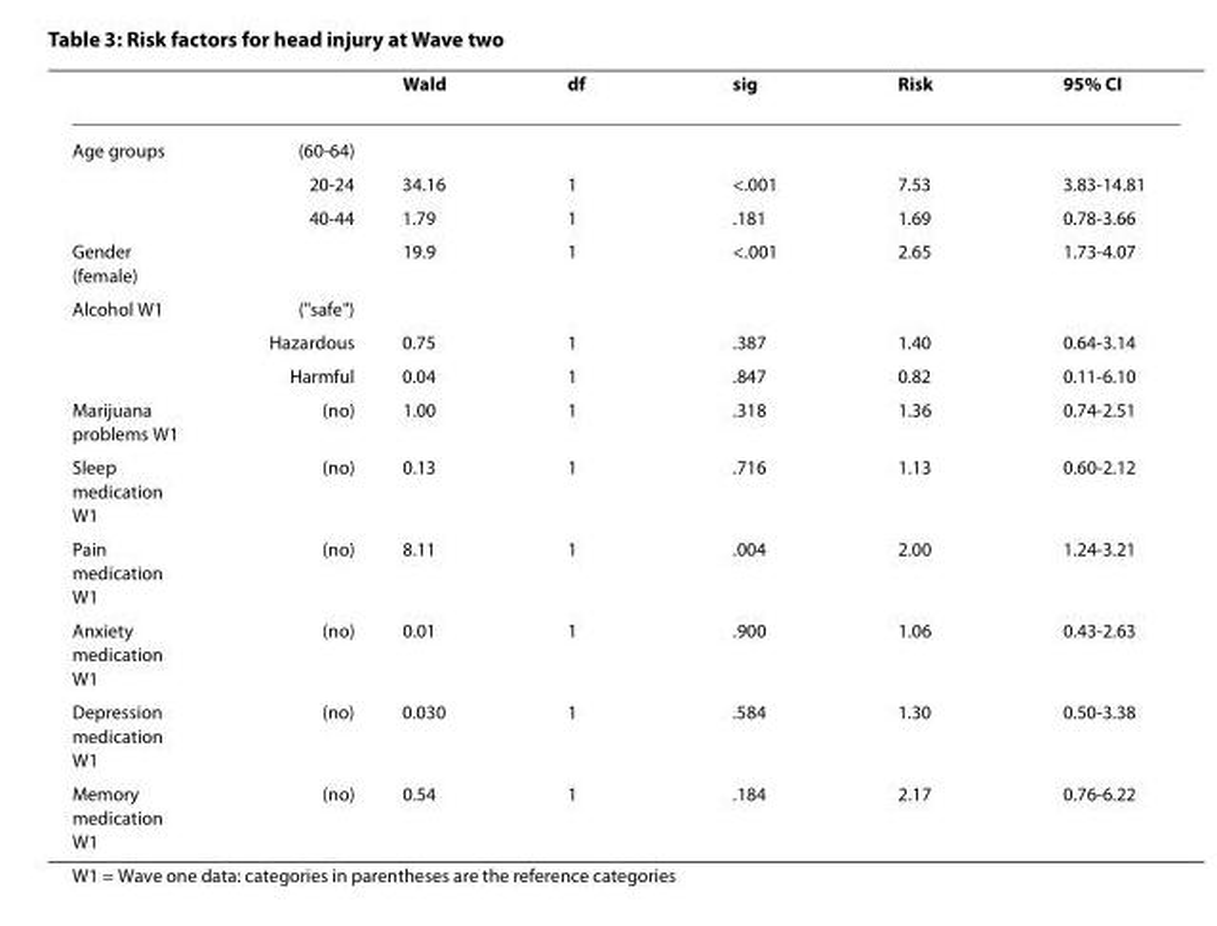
<table><thead><tr><td></td><td></td><td>Wald</td><td>df</td><td>sig</td><td>Risk</td><td>95% CI</td></tr></thead><tbody><tr><td rowspan="3">Age groups</td><td>(60-64)</td><td></td><td></td><td></td><td></td><td></td></tr><tr><td>20-24</td><td>34.16</td><td>1</td><td>&lt;.001</td><td>7.53</td><td>3.83-14.81</td></tr><tr><td>40-44</td><td>1.79</td><td>1</td><td>.181</td><td>1.69</td><td>0.78-3.66</td></tr><tr><td>Gender (female)</td><td></td><td>19.9</td><td>1</td><td>&lt;.001</td><td>2.65</td><td>1.73-4.07</td></tr><tr><td rowspan="3">Alcohol W1</td><td>(&quot;safe&quot;)</td><td></td><td></td><td></td><td></td><td></td></tr><tr><td>Hazardous</td><td>0.75</td><td>1</td><td>.387</td><td>1.40</td><td>0.64-3.14</td></tr><tr><td>Harmful</td><td>0.04</td><td>1</td><td>.847</td><td>0.82</td><td>0.11-6.10</td></tr><tr><td>Marijuana problems W1</td><td>(no)</td><td>1.00</td><td>1</td><td>.318</td><td>1.36</td><td>0.74-2.51</td></tr><tr><td>Sleep medication W1</td><td>(no)</td><td>0.13</td><td>1</td><td>.716</td><td>1.13</td><td>0.60-2.12</td></tr><tr><td>Pain medication W1</td><td>(no)</td><td>8.11</td><td>1</td><td>.004</td><td>2.00</td><td>1.24-3.21</td></tr><tr><td>Anxiety medication W1</td><td>(no)</td><td>0.01</td><td>1</td><td>.900</td><td>1.06</td><td>0.43-2.63</td></tr><tr><td>Depression medication W1</td><td>(no)</td><td>0.030</td><td>1</td><td>.584</td><td>1.30</td><td>0.50-3.38</td></tr><tr><td>Memory medication W1</td><td>(no)</td><td>0.54</td><td>1</td><td>.184</td><td>2.17</td><td>0.76-6.22</td></tr></tbody></table>